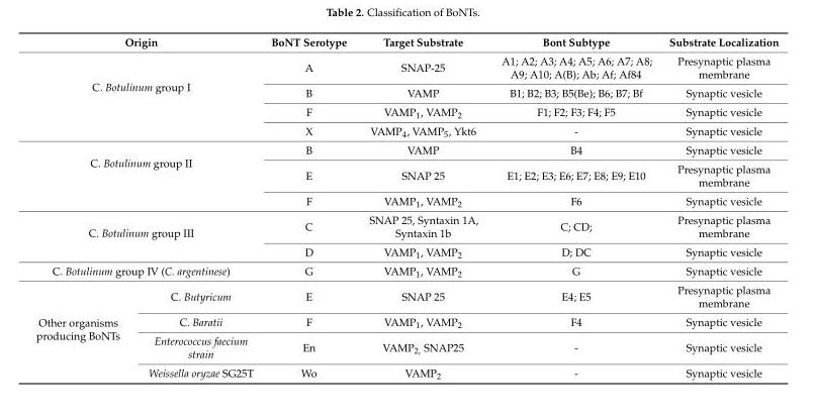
<table><thead><tr><td colspan="2">Origin</td><td>BoNT Serotype</td><td>Target Substrate</td><td>Bont Subtype</td><td>Substrate Localization</td></tr></thead><tbody><tr><td rowspan="4" colspan="2">C. Botulinum group I</td><td>A</td><td>SNAP-25</td><td>A1; A2; A3; A4; A5; A6; A7; A8; A9; A10; A(B); Ab; Af; Af84</td><td>Presynaptic plasma membrane</td></tr><tr><td>B</td><td>VAMP</td><td>B1; B2; B3; B5(Be); B6; B7; Bf</td><td>Synaptic vesicle</td></tr><tr><td>F</td><td>VAMP<sub>1</sub>, VAMP<sub>2</sub></td><td>F1; F2; F3; F4; F5</td><td>Synaptic vesicle</td></tr><tr><td>X</td><td>VAMP<sub>4</sub>, VAMP<sub>5</sub>, Ykt6</td><td>-</td><td>Synaptic vesicle</td></tr><tr><td rowspan="3" colspan="2">C. Botulinum group II</td><td>B</td><td>VAMP</td><td>B4</td><td>Synaptic vesicle</td></tr><tr><td>E</td><td>SNAP 25</td><td>E1; E2; E3; E6; E7; E8; E9; E10</td><td>Presynaptic plasma membrane</td></tr><tr><td>F</td><td>VAMP<sub>1</sub>, VAMP<sub>2</sub></td><td>F6</td><td>Synaptic vesicle</td></tr><tr><td rowspan="2" colspan="2">C. Botulinum group III</td><td>C</td><td>SNAP 25, Syntaxin 1A, Syntaxin 1b</td><td>C; CD;</td><td>Presynaptic plasma membrane</td></tr><tr><td>D</td><td>VAMP<sub>1</sub>, VAMP<sub>2</sub></td><td>D; DC</td><td>Synaptic vesicle</td></tr><tr><td colspan="2">C. Botulinum group IV (C. argentinese)</td><td>G</td><td>VAMP<sub>1</sub>, VAMP<sub>2</sub></td><td>G</td><td>Synaptic vesicle</td></tr><tr><td rowspan="4">Other organisms producing BoNTs</td><td>C. Butyricum</td><td>E</td><td>SNAP 25</td><td>E4; E5</td><td>Presynaptic plasma membrane</td></tr><tr><td>C. Baratii</td><td>F</td><td>VAMP<sub>1</sub>, VAMP<sub>2</sub></td><td>F4</td><td>Synaptic vesicle</td></tr><tr><td>Enterococcus faecium strain</td><td>En</td><td>VAMP<sub>2,</sub> SNAP25</td><td>-</td><td>Synaptic vesicle</td></tr><tr><td>Weissella oryzae SG25T</td><td>Wo</td><td>VAMP<sub>2</sub></td><td>-</td><td>Synaptic vesicle</td></tr></tbody></table>